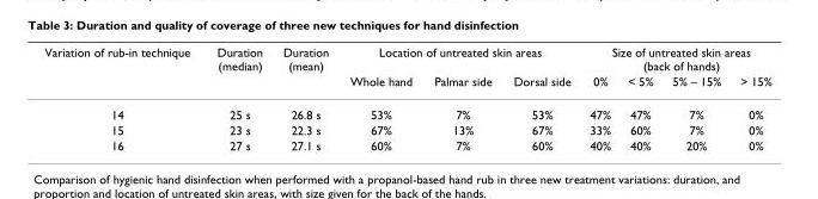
<table><thead><tr><td rowspan="2">Variation of rub-in technique</td><td rowspan="2">Duration (median)</td><td rowspan="2">Duration (mean)</td><td colspan="3">Location of untreated skin areas</td><td colspan="4">Size of untreated skin areas (back of hands)</td></tr><tr><td>Whole hand</td><td>Palmar side</td><td>Dorsal side</td><td>0%</td><td>&lt; 5%</td><td>5% – 15%</td><td>&gt; 15%</td></tr></thead><tbody><tr><td>14</td><td>25 s</td><td>26.8 s</td><td>53%</td><td>7%</td><td>53%</td><td>47%</td><td>47%</td><td>7%</td><td>0%</td></tr><tr><td>15</td><td>23 s</td><td>22.3 s</td><td>67%</td><td>13%</td><td>67%</td><td>33%</td><td>60%</td><td>7%</td><td>0%</td></tr><tr><td>16</td><td>27 s</td><td>27.1 s</td><td>60%</td><td>7%</td><td>60%</td><td>40%</td><td>40%</td><td>20%</td><td>0%</td></tr></tbody></table>